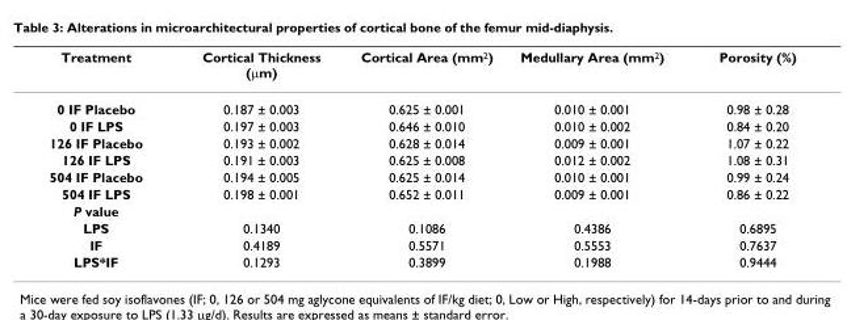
<table><thead><tr><td>Treatment</td><td>Cortical Thickness (µm)</td><td>Cortical Area (mm<sup>2</sup>)</td><td>Medullary Area (mm<sup>2</sup>)</td><td>Porosity (%)</td></tr></thead><tbody><tr><td>0 IF Placebo</td><td>0.187 ± 0.003</td><td>0.625 ± 0.001</td><td>0.010 ± 0.001</td><td>0.98 ± 0.28</td></tr><tr><td>0 IF LPS</td><td>0.197 ± 0.003</td><td>0.646 ± 0.010</td><td>0.010 ± 0.002</td><td>0.84 ± 0.20</td></tr><tr><td>126 IF Placebo</td><td>0.193 ± 0.002</td><td>0.628 ± 0.014</td><td>0.009 ± 0.001</td><td>1.07 ± 0.22</td></tr><tr><td>126 IF LPS</td><td>0.191 ± 0.003</td><td>0.625 ± 0.008</td><td>0.012 ± 0.002</td><td>1.08 ± 0.31</td></tr><tr><td>504 IF Placebo</td><td>0.194 ± 0.005</td><td>0.625 ± 0.014</td><td>0.010 ± 0.001</td><td>0.99 ± 0.24</td></tr><tr><td>504 IF LPS</td><td>0.198 ± 0.001</td><td>0.652 ± 0.011</td><td>0.009 ± 0.001</td><td>0.86 ± 0.22</td></tr><tr><td colspan="5">P value</td></tr><tr><td>LPS</td><td>0.1340</td><td>0.1086</td><td>0.4386</td><td>0.6895</td></tr><tr><td>IF</td><td>0.4189</td><td>0.5571</td><td>0.5553</td><td>0.7637</td></tr><tr><td>LPS*IF</td><td>0.1293</td><td>0.3899</td><td>0.1988</td><td>0.9444</td></tr></tbody></table>